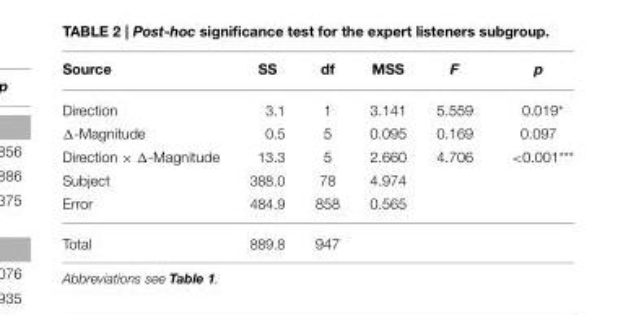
<table><thead><tr><td>Source</td><td>SS</td><td>df</td><td>MSS</td><td>F</td><td>p</td></tr></thead><tbody><tr><td>Direction</td><td>3.1</td><td>1</td><td>3.141</td><td>5.559</td><td>0.019*</td></tr><tr><td>Δ-Magnitude</td><td>0.5</td><td>5</td><td>0.095</td><td>0.169</td><td>0.097</td></tr><tr><td>Direction × Δ-Magnitude</td><td>13.3</td><td>5</td><td>2.660</td><td>4.706</td><td>&lt;0.001***</td></tr><tr><td>Subject</td><td>388.0</td><td>78</td><td>4.974</td><td></td><td></td></tr><tr><td>Error</td><td>484.9</td><td>858</td><td>0.565</td><td></td><td></td></tr><tr><td>Total</td><td>889.8</td><td>947</td><td></td><td></td><td></td></tr></tbody></table>